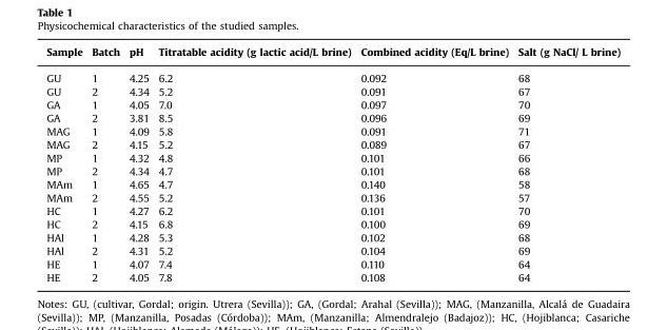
<table><thead><tr><td>Sample</td><td>Batch</td><td>pH</td><td>Titratable acidity (g lactic acid/L brine)</td><td>Combined acidity (Eq/L brine)</td><td>Salt (g NaCl/ L brine)</td></tr></thead><tbody><tr><td>GU</td><td>1</td><td>4.25</td><td>6.2</td><td>0.092</td><td>68</td></tr><tr><td>GU</td><td>2</td><td>4.34</td><td>5.2</td><td>0.091</td><td>67</td></tr><tr><td>GA</td><td>1</td><td>4.05</td><td>7.0</td><td>0.097</td><td>70</td></tr><tr><td>GA</td><td>2</td><td>3.81</td><td>8.5</td><td>0.096</td><td>69</td></tr><tr><td>MAG</td><td>1</td><td>4.09</td><td>5.8</td><td>0.091</td><td>71</td></tr><tr><td>MAG</td><td>2</td><td>4.15</td><td>5.2</td><td>0.089</td><td>67</td></tr><tr><td>MP</td><td>1</td><td>4.32</td><td>4.8</td><td>0.101</td><td>66</td></tr><tr><td>MP</td><td>2</td><td>4.34</td><td>4.7</td><td>0.101</td><td>68</td></tr><tr><td>MAm</td><td>1</td><td>4.65</td><td>4.7</td><td>0.140</td><td>58</td></tr><tr><td>MAm</td><td>2</td><td>4.55</td><td>5.2</td><td>0.136</td><td>57</td></tr><tr><td>HC</td><td>1</td><td>4.27</td><td>6.2</td><td>0.101</td><td>70</td></tr><tr><td>HC</td><td>2</td><td>4.15</td><td>6.8</td><td>0.100</td><td>69</td></tr><tr><td>HAl</td><td>1</td><td>4.28</td><td>5.3</td><td>0.102</td><td>68</td></tr><tr><td>HAl</td><td>2</td><td>4.31</td><td>5.2</td><td>0.104</td><td>69</td></tr><tr><td>HE</td><td>1</td><td>4.07</td><td>7.4</td><td>0.110</td><td>64</td></tr><tr><td>HE</td><td>2</td><td>4.05</td><td>7.8</td><td>0.108</td><td>64</td></tr></tbody></table>